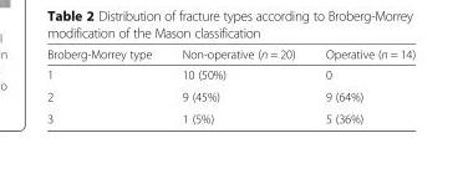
<table><thead><tr><td>Broberg-Morrey type</td><td>Non-operative (n = 20)</td><td>Operative (n = 14)</td></tr></thead><tbody><tr><td>1</td><td>10 (50%)</td><td>0</td></tr><tr><td>2</td><td>9 (45%)</td><td>9 (64%)</td></tr><tr><td>3</td><td>1 (5%)</td><td>5 (36%)</td></tr></tbody></table>